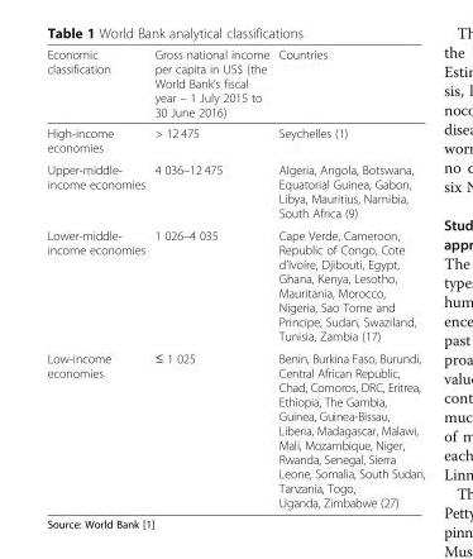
<table><thead><tr><td>Economic classification</td><td>Gross national income per capita in US$ (the World Bank’s fiscal year – 1 July 2015 to 30 June 2016)</td><td>Countries</td></tr></thead><tbody><tr><td>High-income economies</td><td>&gt; 12 475</td><td>Seychelles (1)</td></tr><tr><td>Upper-middle- income economies</td><td>4 036–12 475</td><td>Algeria, Angola, Botswana, Equatorial Guinea, Gabon, Libya, Mauritius, Namibia, South Africa (9)</td></tr><tr><td>Lower-middle- income economies</td><td>1 026–4 035</td><td>Cape Verde, Cameroon, Republic of Congo, Cote d’Ivoire, Djibouti, Egypt, Ghana, Kenya, Lesotho, Mauritania, Morocco, Nigeria, Sao Tome and Principe, Sudan, Swaziland, Tunisia, Zambia (17)</td></tr><tr><td>Low-income economies</td><td>≤ 1 025</td><td>Benin, Burkina Faso, Burundi, Central African Republic, Chad, Comoros, DRC, Eritrea, Ethiopia, The Gambia, Guinea, Guinea-Bissau, Liberia, Madagascar, Malawi, Mali, Mozambique, Niger, Rwanda, Senegal, Sierra Leone, Somalia, South Sudan, Tanzania, Togo, Uganda, Zimbabwe (27)</td></tr></tbody></table>